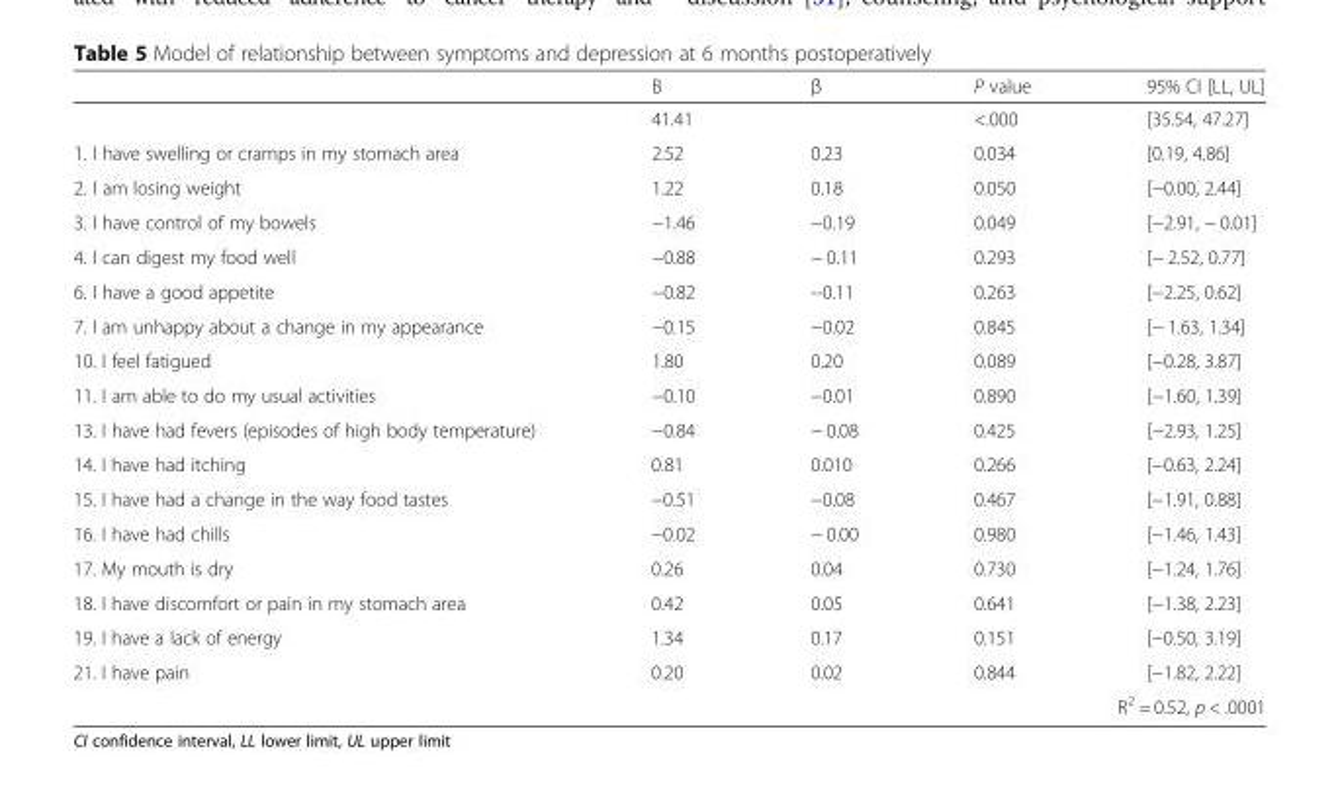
<table><thead><tr><td></td><td>B</td><td>β</td><td>P value</td><td>95% CI [LL, UL]</td></tr></thead><tbody><tr><td></td><td>41.41</td><td></td><td>&lt;.000</td><td>[35.54, 47.27]</td></tr><tr><td>1. I have swelling or cramps in my stomach area</td><td>2.52</td><td>0.23</td><td>0.034</td><td>[0.19, 4.86]</td></tr><tr><td>2. I am losing weight</td><td>1.22</td><td>0.18</td><td>0.050</td><td>[−0.00, 2.44]</td></tr><tr><td>3. I have control of my bowels</td><td>−1.46</td><td>−0.19</td><td>0.049</td><td>[−2.91, − 0.01]</td></tr><tr><td>4. I can digest my food well</td><td>−0.88</td><td>− 0.11</td><td>0.293</td><td>[− 2.52, 0.77]</td></tr><tr><td>6. I have a good appetite</td><td>−0.82</td><td>--0.11</td><td>0.263</td><td>[−2.25, 0.62]</td></tr><tr><td>7. I am unhappy about a change in my appearance</td><td>−0.15</td><td>−0.02</td><td>0.845</td><td>[− 1.63, 1.34]</td></tr><tr><td>10. I feel fatigued</td><td>1.80</td><td>0.20</td><td>0.089</td><td>[−0.28, 3.87]</td></tr><tr><td>11. I am able to do my usual activities</td><td>−0.10</td><td>−0.01</td><td>0.890</td><td>[−1.60, 1.39]</td></tr><tr><td>13. I have had fevers (episodes of high body temperature)</td><td>−0.84</td><td>− 0.08</td><td>0.425</td><td>[−2.93, 1.25]</td></tr><tr><td>14. I have had itching</td><td>0.81</td><td>0.010</td><td>0.266</td><td>[−0.63, 2.24]</td></tr><tr><td>15. I have had a change in the way food tastes</td><td>−0.51</td><td>−0.08</td><td>0.467</td><td>[−1.91, 0.88]</td></tr><tr><td>16. I have had chills</td><td>−0.02</td><td>− 0.00</td><td>0.980</td><td>[−1.46, 1.43]</td></tr><tr><td>17. My mouth is dry</td><td>0.26</td><td>0.04</td><td>0.730</td><td>[−1.24, 1.76]</td></tr><tr><td>18. I have discomfort or pain in my stomach area</td><td>0.42</td><td>0.05</td><td>0.641</td><td>[−1.38, 2.23]</td></tr><tr><td>19. I have a lack of energy</td><td>1.34</td><td>0.17</td><td>0.151</td><td>[−0.50, 3.19]</td></tr><tr><td>21. I have pain</td><td>0.20</td><td>0.02</td><td>0.844</td><td>[−1.82, 2.22]</td></tr><tr><td colspan="5">R<sup>2</sup> = 0.52, p &lt; .0001</td></tr></tbody></table>